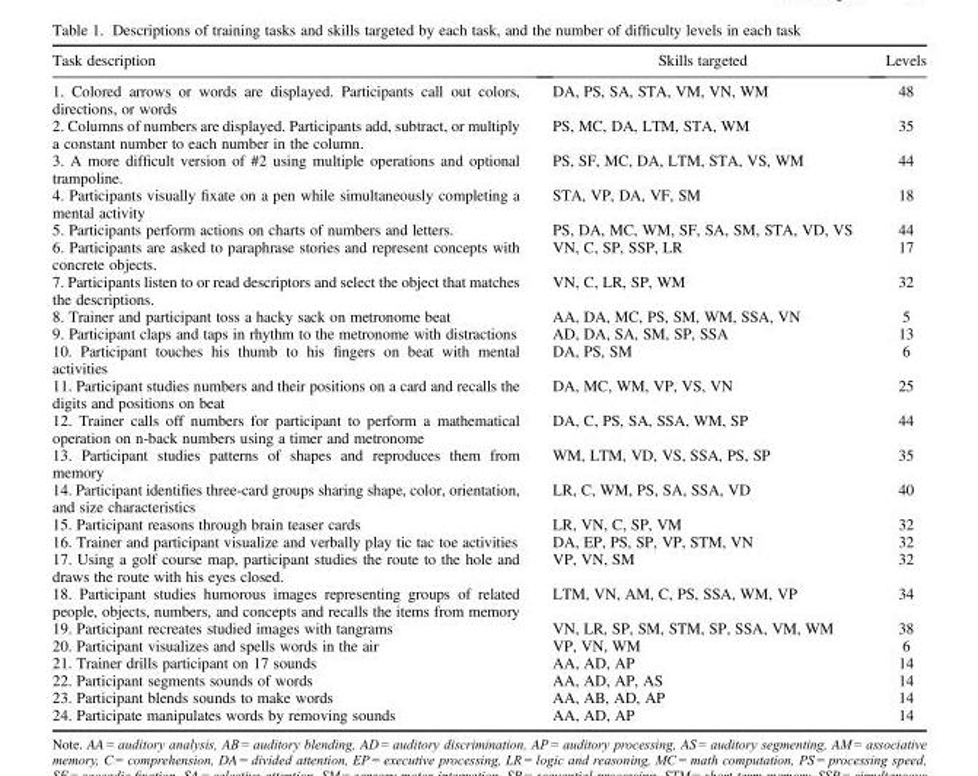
<table><thead><tr><td>Task description</td><td>Skills targeted</td><td>Levels</td></tr></thead><tbody><tr><td>1. Colored arrows or words are displayed. Participants call out colors, directions, or words</td><td>DA, PS, SA, STA, VM, VN, WM</td><td>48</td></tr><tr><td>2. Columns of numbers are displayed. Participants add, subtract, or multiply a constant number to each number in the column.</td><td>PS, MC, DA, LTM, STA, WM</td><td>35</td></tr><tr><td>3. A more difficult version of #2 using multiple operations and optional trampoline.</td><td>PS, SF, MC, DA, LTM, STA, VS, WM</td><td>44</td></tr><tr><td>4. Participants visually fixate on a pen while simultaneously completing a mental activity</td><td>STA, VP, DA, VF, SM</td><td>18</td></tr><tr><td>5. Participants perform actions on charts of numbers and letters.</td><td>PS, DA, MC, WM, SF, SA, SM, STA, VD, VS</td><td>44</td></tr><tr><td>6. Participants are asked to paraphrase stories and represent concepts with concrete objects.</td><td>VN, C, SP, SSP, LR</td><td>17</td></tr><tr><td>7. Participants listen to or read descriptors and select the object that matches the descriptions.</td><td>VN, C, LR, SP, WM</td><td>32</td></tr><tr><td>8. Trainer and participant toss a hacky sack on metronome beat</td><td>AA, DA, MC, PS, SM, WM, SSA, VN</td><td>5</td></tr><tr><td>9. Participant claps and taps in rhythm to the metronome with distractions</td><td>AD, DA, SA, SM, SP, SSA</td><td>13</td></tr><tr><td>10. Participant touches his thumb to his fingers on beat with mental activities</td><td>DA, PS, SM</td><td>6</td></tr><tr><td>11. Participant studies numbers and their positions on a card and recalls the digits and positions on beat</td><td>DA, MC, WM, VP, VS, VN</td><td>25</td></tr><tr><td>12. Trainer calls off numbers for participant to perform a mathematical operation on n-back numbers using a timer and metronome</td><td>DA, C, PS, SA, SSA, WM, SP</td><td>44</td></tr><tr><td>13. Participant studies patterns of shapes and reproduces them from memory</td><td>WM, LTM, VD, VS, SSA, PS, SP</td><td>35</td></tr><tr><td>14. Participant identifies three-card groups sharing shape, color, orientation, and size characteristics</td><td>LR, C, WM, PS, SA, SSA, VD</td><td>40</td></tr><tr><td>15. Participant reasons through brain teaser cards</td><td>LR, VN, C, SP, VM</td><td>32</td></tr><tr><td>16. Trainer and participant visualize and verbally play tic tac toe activities</td><td>DA, EP, PS, SP, VP, STM, VN</td><td>32</td></tr><tr><td>17. Using a golf course map, participant studies the route to the hole and draws the route with his eyes closed.</td><td>VP, VN, SM</td><td>32</td></tr><tr><td>18. Participant studies humorous images representing groups of related people, objects, numbers, and concepts and recalls the items from memory</td><td>LTM, VN, AM, C, PS, SSA, WM, VP</td><td>34</td></tr><tr><td>19. Participant recreates studied images with tangrams</td><td>VN, LR, SP, SM, STM, SP, SSA, VM, WM</td><td>38</td></tr><tr><td>20. Participant visualizes and spells words in the air</td><td>VP, VN, WM</td><td>6</td></tr><tr><td>21. Trainer drills participant on 17 sounds</td><td>AA, AD, AP</td><td>14</td></tr><tr><td>22. Participant segments sounds of words</td><td>AA, AD, AP, AS</td><td>14</td></tr><tr><td>23. Participant blends sounds to make words</td><td>AA, AB, AD, AP</td><td>14</td></tr><tr><td>24. Participate manipulates words by removing sounds</td><td>AA, AD, AP</td><td>14</td></tr></tbody></table>